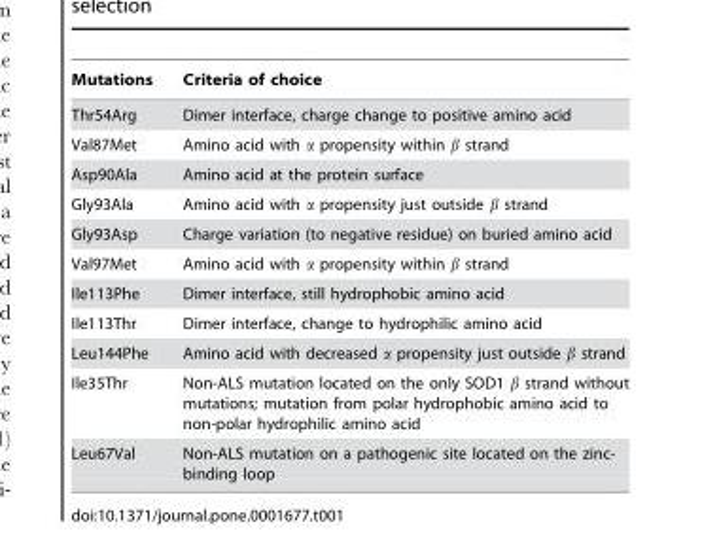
<table><thead><tr><td>Mutations</td><td>Criteria of choice</td></tr></thead><tbody><tr><td>Thr54Arg</td><td>Dimer interface, charge change to positive amino acid</td></tr><tr><td>Val87Met</td><td>Amino acid with α propensity within β strand</td></tr><tr><td>Asp90Ala</td><td>Amino acid at the protein surface</td></tr><tr><td>Gly93Ala</td><td>Amino acid with α propensity just outside β strand</td></tr><tr><td>Gly93Asp</td><td>Charge variation (to negative residue) on buried amino acid</td></tr><tr><td>Val97Met</td><td>Amino acid with α propensity within β strand</td></tr><tr><td>Ile113Phe</td><td>Dimer interface, still hydrophobic amino acid</td></tr><tr><td>Ile113Thr</td><td>Dimer interface, change to hydrophilic amino acid</td></tr><tr><td>Leu144Phe</td><td>Amino acid with decreased α propensity just outside β strand</td></tr><tr><td>Ile35Thr</td><td>Non-ALS mutation located on the only SOD1 β strand without mutations; mutation from polar hydrophobic amino acid to non-polar hydrophilic amino acid</td></tr><tr><td>Leu67Val</td><td>Non-ALS mutation on a pathogenic site located on the zinc- binding loop</td></tr></tbody></table>